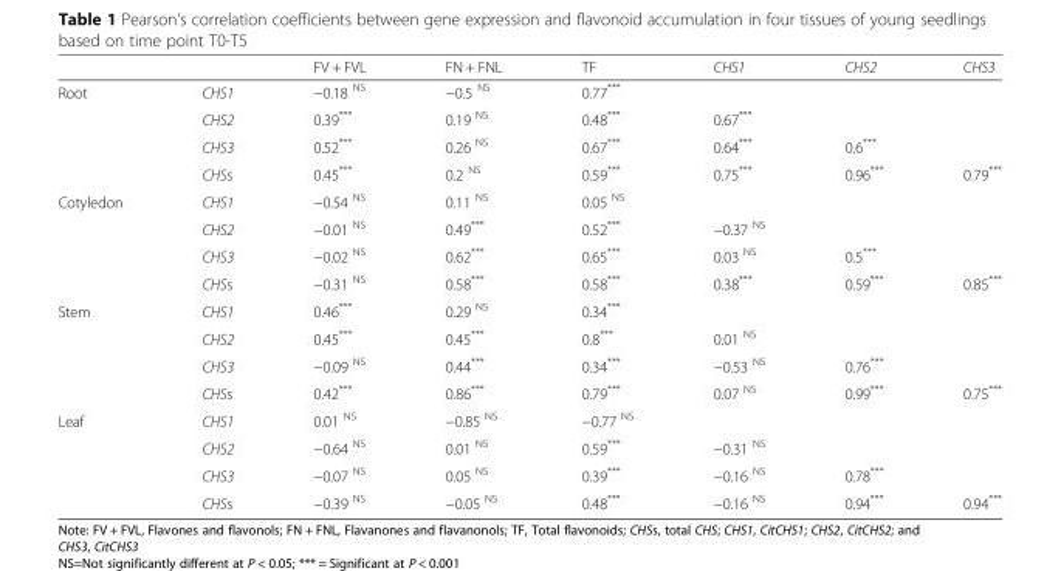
<table><thead><tr><td></td><td></td><td>FV + FVL</td><td>FN + FNL</td><td>TF</td><td>CHS1</td><td>CHS2</td><td>CHS3</td></tr></thead><tbody><tr><td rowspan="4">Root</td><td>CHS1</td><td>−0.18 <sup>NS</sup></td><td>−0.5 <sup>NS</sup></td><td>0.77***</td><td></td><td></td><td></td></tr><tr><td>CHS2</td><td>0.39***</td><td>0.19 <sup>NS</sup></td><td>0.48***</td><td>0.67***</td><td></td><td></td></tr><tr><td>CHS3</td><td>0.52***</td><td>0.26 <sup>NS</sup></td><td>0.67***</td><td>0.64***</td><td>0.6***</td><td></td></tr><tr><td>CHSs</td><td>0.45***</td><td>0.2 <sup>NS</sup></td><td>0.59***</td><td>0.75***</td><td>0.96***</td><td>0.79***</td></tr><tr><td rowspan="4">Cotyledon</td><td>CHS1</td><td>−0.54 <sup>NS</sup></td><td>0.11 <sup>NS</sup></td><td>0.05 <sup>NS</sup></td><td></td><td></td><td></td></tr><tr><td>CHS2</td><td>−0.01 <sup>NS</sup></td><td>0.49***</td><td>0.52***</td><td>−0.37 <sup>NS</sup></td><td></td><td></td></tr><tr><td>CHS3</td><td>−0.02 <sup>NS</sup></td><td>0.62***</td><td>0.65***</td><td>0.03 <sup>NS</sup></td><td>0.5***</td><td></td></tr><tr><td>CHSs</td><td>−0.31 <sup>NS</sup></td><td>0.58***</td><td>0.58***</td><td>0.38***</td><td>0.59***</td><td>0.85***</td></tr><tr><td rowspan="4">Stem</td><td>CHS1</td><td>0.46***</td><td>0.29 <sup>NS</sup></td><td>0.34***</td><td></td><td></td><td></td></tr><tr><td>CHS2</td><td>0.45***</td><td>0.45***</td><td>0.8***</td><td>0.01 <sup>NS</sup></td><td></td><td></td></tr><tr><td>CHS3</td><td>−0.09 <sup>NS</sup></td><td>0.44***</td><td>0.34***</td><td>−0.53 <sup>NS</sup></td><td>0.76***</td><td></td></tr><tr><td>CHSs</td><td>0.42***</td><td>0.86***</td><td>0.79***</td><td>0.07 <sup>NS</sup></td><td>0.99***</td><td>0.75***</td></tr><tr><td rowspan="4">Leaf</td><td>CHS1</td><td>0.01 <sup>NS</sup></td><td>−0.85 <sup>NS</sup></td><td>−0.77 <sup>NS</sup></td><td></td><td></td><td></td></tr><tr><td>CHS2</td><td>−0.64 <sup>NS</sup></td><td>0.01 <sup>NS</sup></td><td>0.59***</td><td>−0.31 <sup>NS</sup></td><td></td><td></td></tr><tr><td>CHS3</td><td>−0.07 <sup>NS</sup></td><td>0.05 <sup>NS</sup></td><td>0.39***</td><td>−0.16 <sup>NS</sup></td><td>0.78***</td><td></td></tr><tr><td>CHSs</td><td>−0.39 <sup>NS</sup></td><td>−0.05 <sup>NS</sup></td><td>0.48***</td><td>−0.16 <sup>NS</sup></td><td>0.94***</td><td>0.94***</td></tr></tbody></table>